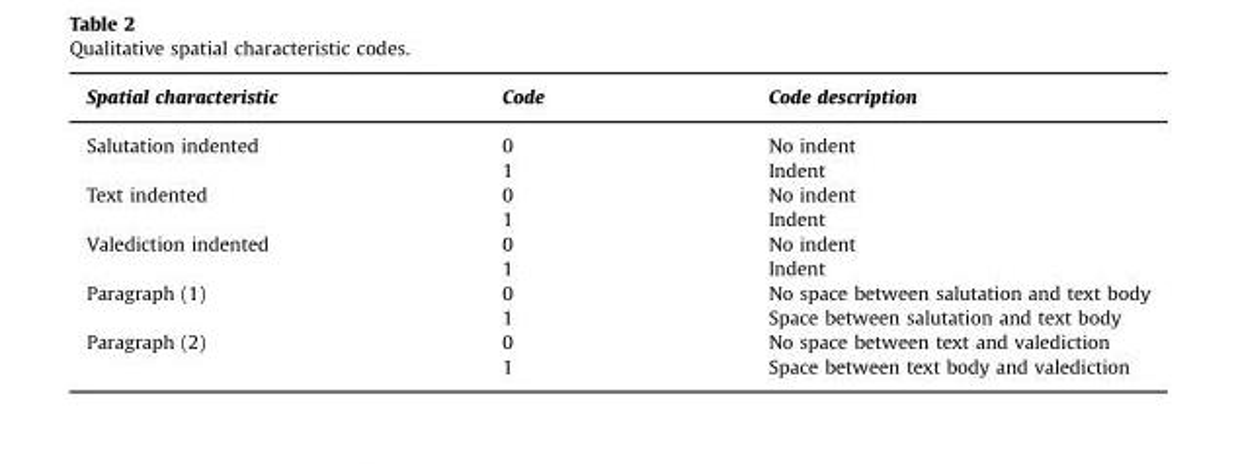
<table><thead><tr><td>Spatial characteristic</td><td>Code</td><td>Code description</td></tr></thead><tbody><tr><td rowspan="2">Salutation indented</td><td>0</td><td>No indent</td></tr><tr><td>1</td><td>Indent</td></tr><tr><td rowspan="2">Text indented</td><td>0</td><td>No indent</td></tr><tr><td>1</td><td>Indent</td></tr><tr><td rowspan="2">Valediction indented</td><td>0</td><td>No indent</td></tr><tr><td>1</td><td>Indent</td></tr><tr><td rowspan="2">Paragraph (1)</td><td>0</td><td>No space between salutation and text body</td></tr><tr><td>1</td><td>Space between salutation and text body</td></tr><tr><td rowspan="2">Paragraph (2)</td><td>0</td><td>No space between text and valediction</td></tr><tr><td>1</td><td>Space between text body and valediction</td></tr></tbody></table>